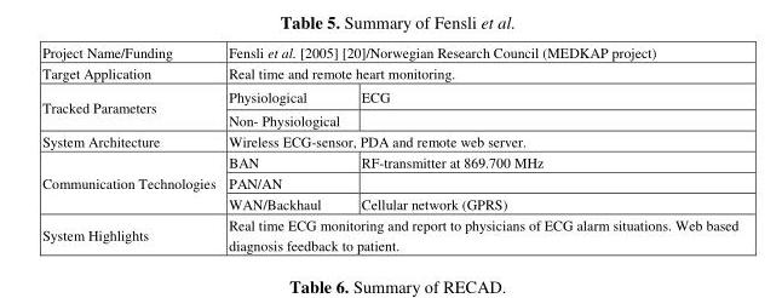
<table><tbody><tr><td>Project Name/Funding</td><td colspan="2">Fensli et al. [2005] [20]/Norwegian Research Council (MEDKAP project)</td></tr><tr><td>Target Application</td><td colspan="2">Real time and remote heart monitoring.</td></tr><tr><td rowspan="2">Tracked Parameters</td><td>Physiological</td><td>ECG</td></tr><tr><td>Non- Physiological</td><td></td></tr><tr><td>System Architecture</td><td colspan="2">Wireless ECG-sensor, PDA and remote web server.</td></tr><tr><td rowspan="3">Communication Technologies</td><td>BAN</td><td>RF-transmitter at 869.700 MHz</td></tr><tr><td>PAN/AN</td><td></td></tr><tr><td>WAN/Backhaul</td><td>Cellular network (GPRS)</td></tr><tr><td>System Highlights</td><td colspan="2">Real time ECG monitoring and report to physicians of ECG alarm situations. Web based diagnosis feedback to patient.</td></tr></tbody></table>